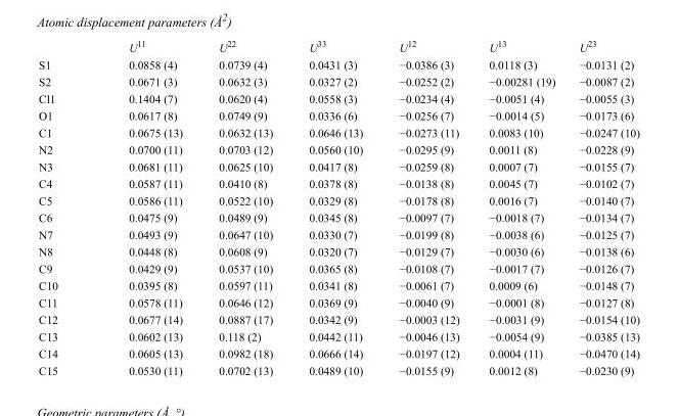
<table><thead><tr><td></td><td>U<sup>11</sup></td><td>U<sup>22</sup></td><td>U<sup>33</sup></td><td>U<sup>12</sup></td><td>U<sup>13</sup></td><td>U<sup>23</sup></td></tr></thead><tbody><tr><td>S1</td><td>0.0858 (4)</td><td>0.0739 (4)</td><td>0.0431 (3)</td><td>−0.0386 (3)</td><td>0.0118 (3)</td><td>−0.0131 (2)</td></tr><tr><td>S2</td><td>0.0671 (3)</td><td>0.0632 (3)</td><td>0.0327 (2)</td><td>−0.0252 (2)</td><td>−0.00281 (19)</td><td>−0.0087 (2)</td></tr><tr><td>Cl1</td><td>0.1404 (7)</td><td>0.0620 (4)</td><td>0.0558 (3)</td><td>−0.0234 (4)</td><td>−0.0051 (4)</td><td>−0.0055 (3)</td></tr><tr><td>O1</td><td>0.0617 (8)</td><td>0.0749 (9)</td><td>0.0336 (6)</td><td>−0.0256 (7)</td><td>−0.0014 (5)</td><td>−0.0173 (6)</td></tr><tr><td>C1</td><td>0.0675 (13)</td><td>0.0632 (13)</td><td>0.0646 (13)</td><td>−0.0273 (11)</td><td>0.0083 (10)</td><td>−0.0247 (10)</td></tr><tr><td>N2</td><td>0.0700 (11)</td><td>0.0703 (12)</td><td>0.0560 (10)</td><td>−0.0295 (9)</td><td>0.0011 (8)</td><td>−0.0228 (9)</td></tr><tr><td>N3</td><td>0.0681 (11)</td><td>0.0625 (10)</td><td>0.0417 (8)</td><td>−0.0259 (8)</td><td>0.0007 (7)</td><td>−0.0155 (7)</td></tr><tr><td>C4</td><td>0.0587 (11)</td><td>0.0410 (8)</td><td>0.0378 (8)</td><td>−0.0138 (8)</td><td>0.0045 (7)</td><td>−0.0102 (7)</td></tr><tr><td>C5</td><td>0.0586 (11)</td><td>0.0522 (10)</td><td>0.0329 (8)</td><td>−0.0178 (8)</td><td>0.0016 (7)</td><td>−0.0140 (7)</td></tr><tr><td>C6</td><td>0.0475 (9)</td><td>0.0489 (9)</td><td>0.0345 (8)</td><td>−0.0097 (7)</td><td>−0.0018 (7)</td><td>−0.0134 (7)</td></tr><tr><td>N7</td><td>0.0493 (9)</td><td>0.0647 (10)</td><td>0.0330 (7)</td><td>−0.0199 (8)</td><td>−0.0038 (6)</td><td>−0.0125 (7)</td></tr><tr><td>N8</td><td>0.0448 (8)</td><td>0.0608 (9)</td><td>0.0320 (7)</td><td>−0.0129 (7)</td><td>−0.0030 (6)</td><td>−0.0138 (6)</td></tr><tr><td>C9</td><td>0.0429 (9)</td><td>0.0537 (10)</td><td>0.0365 (8)</td><td>−0.0108 (7)</td><td>−0.0017 (7)</td><td>−0.0126 (7)</td></tr><tr><td>C10</td><td>0.0395 (8)</td><td>0.0597 (11)</td><td>0.0341 (8)</td><td>−0.0061 (7)</td><td>0.0009 (6)</td><td>−0.0148 (7)</td></tr><tr><td>C11</td><td>0.0578 (11)</td><td>0.0646 (12)</td><td>0.0369 (9)</td><td>−0.0040 (9)</td><td>−0.0001 (8)</td><td>−0.0127 (8)</td></tr><tr><td>C12</td><td>0.0677 (14)</td><td>0.0887 (17)</td><td>0.0342 (9)</td><td>−0.0003 (12)</td><td>−0.0031 (9)</td><td>−0.0154 (10)</td></tr><tr><td>C13</td><td>0.0602 (13)</td><td>0.118 (2)</td><td>0.0442 (11)</td><td>−0.0046 (13)</td><td>−0.0054 (9)</td><td>−0.0385 (13)</td></tr><tr><td>C14</td><td>0.0605 (13)</td><td>0.0982 (18)</td><td>0.0666 (14)</td><td>−0.0197 (12)</td><td>0.0004 (11)</td><td>−0.0470 (14)</td></tr><tr><td>C15</td><td>0.0530 (11)</td><td>0.0702 (13)</td><td>0.0489 (10)</td><td>−0.0155 (9)</td><td>0.0012 (8)</td><td>−0.0230 (9)</td></tr></tbody></table>